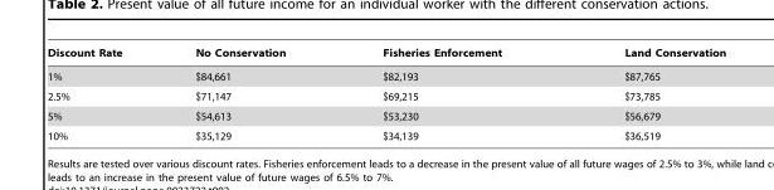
<table><thead><tr><td>Discount Rate</td><td>No Conservation</td><td>Fisheries Enforcement</td><td>Land Conservation</td></tr></thead><tbody><tr><td>1%</td><td>$84,661</td><td>$82,193</td><td>$87,765</td></tr><tr><td>2.5%</td><td>$71,147</td><td>$69,215</td><td>$73,785</td></tr><tr><td>5%</td><td>$54,613</td><td>$53,230</td><td>$56,679</td></tr><tr><td>10%</td><td>$35,129</td><td>$34,139</td><td>$36,519</td></tr></tbody></table>